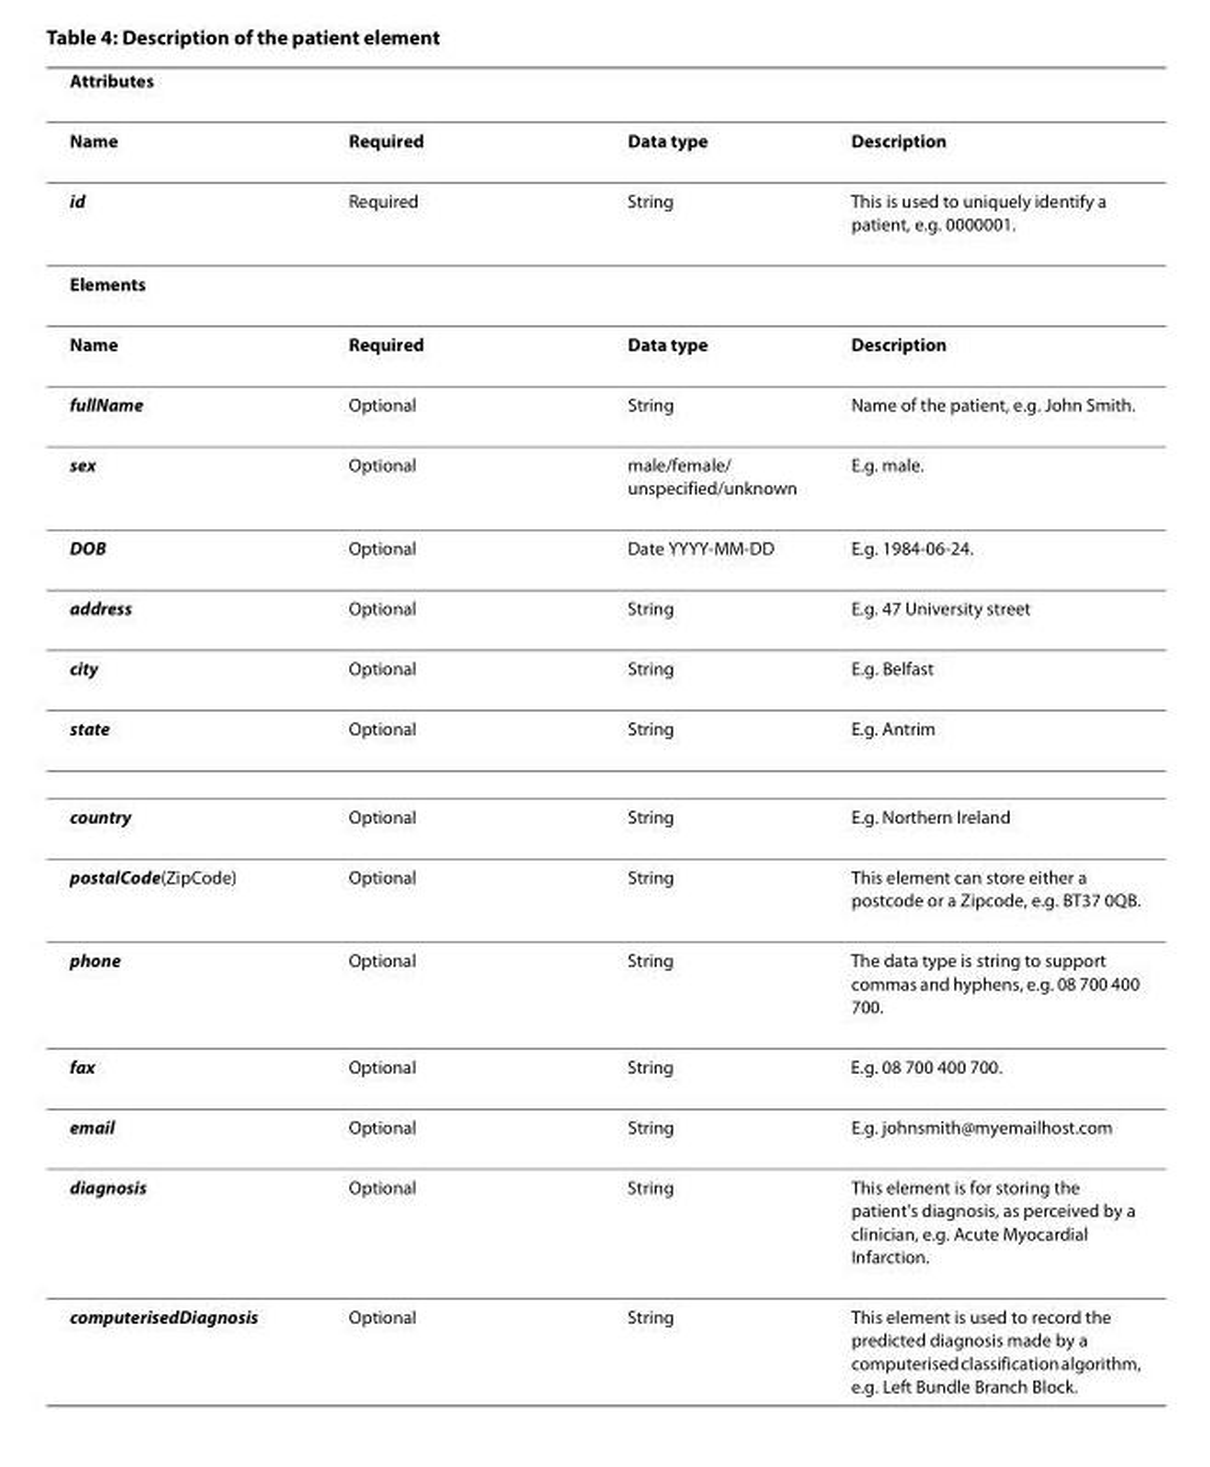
<table><thead><tr><td>Attributes</td><td></td><td></td><td></td></tr></thead><tbody><tr><td>Name</td><td>Required</td><td>Data type</td><td>Description</td></tr><tr><td>id</td><td>Required</td><td>String</td><td>This is used to uniquely identify a patient, e.g. 0000001.</td></tr><tr><td colspan="4">Elements</td></tr><tr><td>Name</td><td>Required</td><td>Data type</td><td>Description</td></tr><tr><td>fullName</td><td>Optional</td><td>String</td><td>Name of the patient, e.g. John Smith.</td></tr><tr><td>sex</td><td>Optional</td><td>male/female/ unspecified/unknown</td><td>E.g. male.</td></tr><tr><td>DOB</td><td>Optional</td><td>Date YYYY-MM-DD</td><td>E.g. 1984-06-24.</td></tr><tr><td>address</td><td>Optional</td><td>String</td><td>E.g. 47 University street</td></tr><tr><td>city</td><td>Optional</td><td>String</td><td>E.g. Belfast</td></tr><tr><td>state</td><td>Optional</td><td>String</td><td>E.g. Antrim</td></tr><tr><td>country</td><td>Optional</td><td>String</td><td>E.g. Northern Ireland</td></tr><tr><td>postalCode(ZipCode)</td><td>Optional</td><td>String</td><td>This element can store either a postcode or a Zipcode, e.g. BT37 0QB.</td></tr><tr><td>phone</td><td>Optional</td><td>String</td><td>The data type is string to support commas and hyphens, e.g. 08 700 400 700.</td></tr><tr><td>fax</td><td>Optional</td><td>String</td><td>E.g. 08 700 400 700.</td></tr><tr><td>email</td><td>Optional</td><td>String</td><td>E.g. johnsmith@myemailhost.com</td></tr><tr><td>diagnosis</td><td>Optional</td><td>String</td><td>This element is for storing the patient&#x27;s diagnosis, as perceived by a clinician, e.g. Acute Myocardial Infarction.</td></tr><tr><td>computerisedDiagnosis</td><td>Optional</td><td>String</td><td>This element is used to record the predicted diagnosis made by a computerised classification algorithm, e.g. Left Bundle Branch Block.</td></tr></tbody></table>